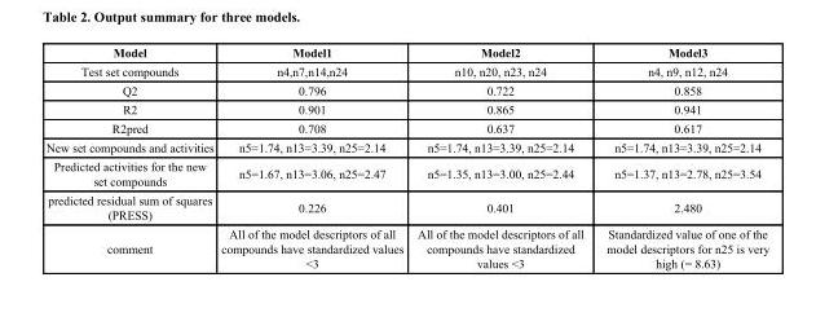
<table><thead><tr><td>Model</td><td>Model1</td><td>Model2</td><td>Model3</td></tr></thead><tbody><tr><td>Test set compounds</td><td>n4,n7,n14,n24</td><td>n10, n20, n23, n24</td><td>n4, n9, n12, n24</td></tr><tr><td>Q2</td><td>0.796</td><td>0.722</td><td>0.858</td></tr><tr><td>R2</td><td>0.901</td><td>0.865</td><td>0.941</td></tr><tr><td>R2pred</td><td>0.708</td><td>0.637</td><td>0.617</td></tr><tr><td>New set compounds and activities</td><td>n5=1.74, n13=3.39, n25=2.14</td><td>n5=1.74, n13=3.39, n25=2.14</td><td>n5=1.74, n13=3.39, n25=2.14</td></tr><tr><td>Predicted activities for the new set compounds</td><td>n5=1.67, n13=3.06, n25=2.47</td><td>n5=1.35, n13=3.00, n25=2.44</td><td>n5=1.37, n13=2.78, n25=3.54</td></tr><tr><td>predicted residual sum of squares (PRESS)</td><td>0.226</td><td>0.401</td><td>2.480</td></tr><tr><td>comment</td><td>All of the model descriptors of all compounds have standardized values &lt;3</td><td>All of the model descriptors of all compounds have standardized values &lt;3</td><td>Standardized value of one of the model descriptors for n25 is very high (= 8.63)</td></tr></tbody></table>